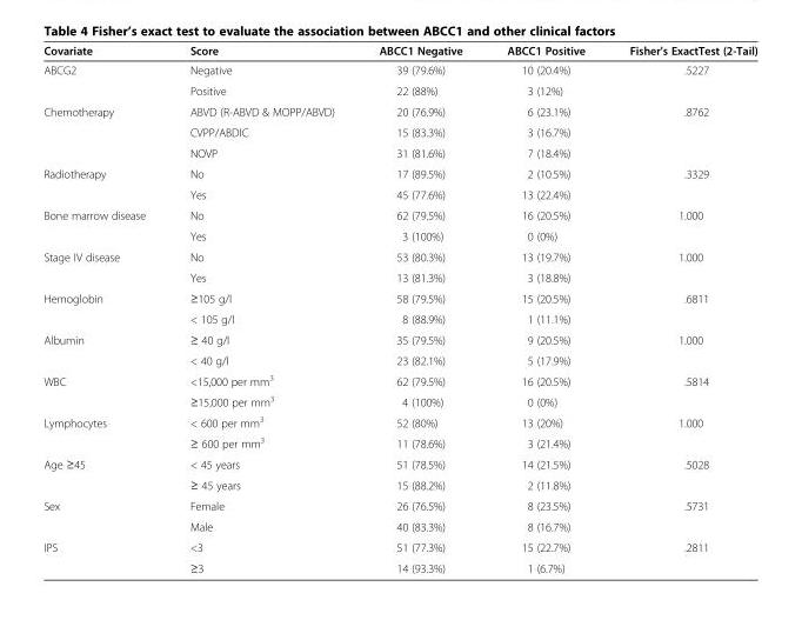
<table><thead><tr><td>Covariate</td><td>Score</td><td>ABCC1 Negative</td><td>ABCC1 Positive</td><td>Fisher&#x27;s ExactTest (2-Tail)</td></tr></thead><tbody><tr><td rowspan="2">ABCG2</td><td>Negative</td><td>39 (79.6%)</td><td>10 (20.4%)</td><td rowspan="2">.5227</td></tr><tr><td>Positive</td><td>22 (88%)</td><td>3 (12%)</td></tr><tr><td rowspan="3">Chemotherapy</td><td>ABVD (R-ABVD &amp; MOPP/ABVD)</td><td>20 (76.9%)</td><td>6 (23.1%)</td><td rowspan="3">.8762</td></tr><tr><td>CVPP/ABDIC</td><td>15 (83.3%)</td><td>3 (16.7%)</td></tr><tr><td>NOVP</td><td>31 (81.6%)</td><td>7 (18.4%)</td></tr><tr><td rowspan="2">Radiotherapy</td><td>No</td><td>17 (89.5%)</td><td>2 (10.5%)</td><td rowspan="2">.3329</td></tr><tr><td>Yes</td><td>45 (77.6%)</td><td>13 (22.4%)</td></tr><tr><td rowspan="2">Bone marrow disease</td><td>No</td><td>62 (79.5%)</td><td>16 (20.5%)</td><td rowspan="2">1.000</td></tr><tr><td>Yes</td><td>3 (100%)</td><td>0 (0%)</td></tr><tr><td rowspan="2">Stage IV disease</td><td>No</td><td>53 (80.3%)</td><td>13 (19.7%)</td><td rowspan="2">1.000</td></tr><tr><td>Yes</td><td>13 (81.3%)</td><td>3 (18.8%)</td></tr><tr><td rowspan="2">Hemoglobin</td><td>≥105 g/l</td><td>58 (79.5%)</td><td>15 (20.5%)</td><td rowspan="2">.6811</td></tr><tr><td>&lt; 105 g/l</td><td>8 (88.9%)</td><td>1 (11.1%)</td></tr><tr><td rowspan="2">Albumin</td><td>≥ 40 g/l</td><td>35 (79.5%)</td><td>9 (20.5%)</td><td rowspan="2">1.000</td></tr><tr><td>&lt; 40 g/l</td><td>23 (82.1%)</td><td>5 (17.9%)</td></tr><tr><td rowspan="2">WBC</td><td>&lt;15,000 per mm<sup>3</sup></td><td>62 (79.5%)</td><td>16 (20.5%)</td><td rowspan="2">.5814</td></tr><tr><td>≥15,000 per mm<sup>3</sup></td><td>4 (100%)</td><td>0 (0%)</td></tr><tr><td rowspan="2">Lymphocytes</td><td>&lt; 600 per mm<sup>3</sup></td><td>52 (80%)</td><td>13 (20%)</td><td rowspan="2">1.000</td></tr><tr><td>≥ 600 per mm<sup>3</sup></td><td>11 (78.6%)</td><td>3 (21.4%)</td></tr><tr><td rowspan="2">Age ≥45</td><td>&lt; 45 years</td><td>51 (78.5%)</td><td>14 (21.5%)</td><td rowspan="2">.5028</td></tr><tr><td>≥ 45 years</td><td>15 (88.2%)</td><td>2 (11.8%)</td></tr><tr><td rowspan="2">Sex</td><td>Female</td><td>26 (76.5%)</td><td>8 (23.5%)</td><td rowspan="2">.5731</td></tr><tr><td>Male</td><td>40 (83.3%)</td><td>8 (16.7%)</td></tr><tr><td rowspan="2">IPS</td><td>&lt;3</td><td>51 (77.3%)</td><td>15 (22.7%)</td><td>.2811</td></tr><tr><td>≥3</td><td>14 (93.3%)</td><td>1 (6.7%)</td><td></td></tr></tbody></table>